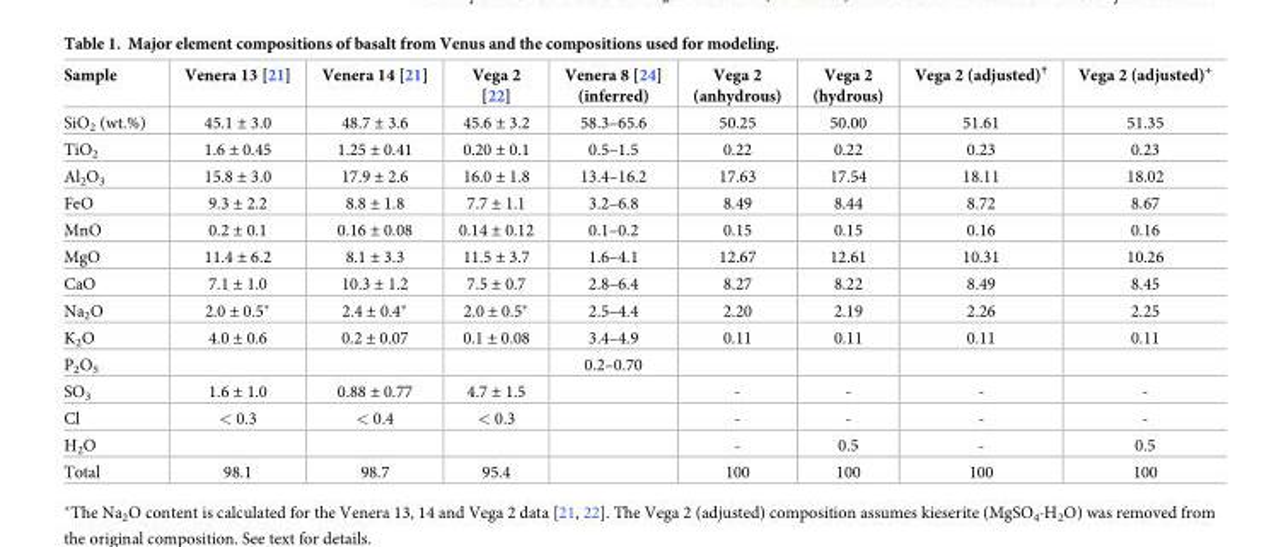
<table><thead><tr><td>Sample</td><td>Venera 13 [21]</td><td>Venera 14 [21]</td><td>Vega 2 [22]</td><td>Venera 8 [24] (inferred)</td><td>Vega 2 (anhydrous)</td><td>Vega 2 (hydrous)</td><td>Vega 2 (adjusted)<sup>†</sup></td><td>Vega 2 (adjusted)<sup>+</sup></td></tr></thead><tbody><tr><td>SiO<sub>2</sub> (wt.%)</td><td>45.1 ± 3.0</td><td>48.7 ± 3.6</td><td>45.6 ± 3.2</td><td>58.3–65.6</td><td>50.25</td><td>50.00</td><td>51.61</td><td>51.35</td></tr><tr><td>TiO<sub>2</sub></td><td>1.6 ± 0.45</td><td>1.25 ± 0.41</td><td>0.20 ± 0.1</td><td>0.5–1.5</td><td>0.22</td><td>0.22</td><td>0.23</td><td>0.23</td></tr><tr><td>Al<sub>2</sub>O<sub>3</sub></td><td>15.8 ± 3.0</td><td>17.9 ± 2.6</td><td>16.0 ± 1.8</td><td>13.4–16.2</td><td>17.63</td><td>17.54</td><td>18.11</td><td>18.02</td></tr><tr><td>FeO</td><td>9.3 ± 2.2</td><td>8.8 ± 1.8</td><td>7.7 ± 1.1</td><td>3.2–6.8</td><td>8.49</td><td>8.44</td><td>8.72</td><td>8.67</td></tr><tr><td>MnO</td><td>0.2 ± 0.1</td><td>0.16 ± 0.08</td><td>0.14 ± 0.12</td><td>0.1–0.2</td><td>0.15</td><td>0.15</td><td>0.16</td><td>0.16</td></tr><tr><td>MgO</td><td>11.4 ± 6.2</td><td>8.1 ± 3.3</td><td>11.5 ± 3.7</td><td>1.6–4.1</td><td>12.67</td><td>12.61</td><td>10.31</td><td>10.26</td></tr><tr><td>CaO</td><td>7.1 ± 1.0</td><td>10.3 ± 1.2</td><td>7.5 ± 0.7</td><td>2.8–6.4</td><td>8.27</td><td>8.22</td><td>8.49</td><td>8.45</td></tr><tr><td>Na<sub>2</sub>O</td><td>2.0 ± 0.5*</td><td>2.4 ± 0.4*</td><td>2.0 ± 0.5*</td><td>2.5–4.4</td><td>2.20</td><td>2.19</td><td>2.26</td><td>2.25</td></tr><tr><td>K<sub>2</sub>O</td><td>4.0 ± 0.6</td><td>0.2 ± 0.07</td><td>0.1 ± 0.08</td><td>3.4–4.9</td><td>0.11</td><td>0.11</td><td>0.11</td><td>0.11</td></tr><tr><td>P<sub>2</sub>O<sub>5</sub></td><td></td><td></td><td></td><td>0.2–0.70</td><td></td><td></td><td></td><td></td></tr><tr><td>SO<sub>3</sub></td><td>1.6 ± 1.0</td><td>0.88 ± 0.77</td><td>4.7 ± 1.5</td><td></td><td>-</td><td>-</td><td>-</td><td>-</td></tr><tr><td>Cl</td><td>&lt; 0.3</td><td>&lt; 0.4</td><td>&lt; 0.3</td><td></td><td>-</td><td>-</td><td>-</td><td>-</td></tr><tr><td>H<sub>2</sub>O</td><td></td><td></td><td></td><td></td><td>-</td><td>0.5</td><td>-</td><td>0.5</td></tr><tr><td>Total</td><td>98.1</td><td>98.7</td><td>95.4</td><td></td><td>100</td><td>100</td><td>100</td><td>100</td></tr></tbody></table>